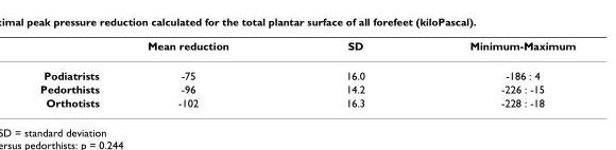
<table><thead><tr><td></td><td>Mean reduction</td><td>SD</td><td>Minimum-Maximum</td></tr></thead><tbody><tr><td>Podiatrists</td><td>-75</td><td>16.0</td><td>-186 : 4</td></tr><tr><td>Pedorthists</td><td>-96</td><td>14.2</td><td>-226 : -15</td></tr><tr><td>Orthotists</td><td>-102</td><td>16.3</td><td>-228 : -18</td></tr></tbody></table>